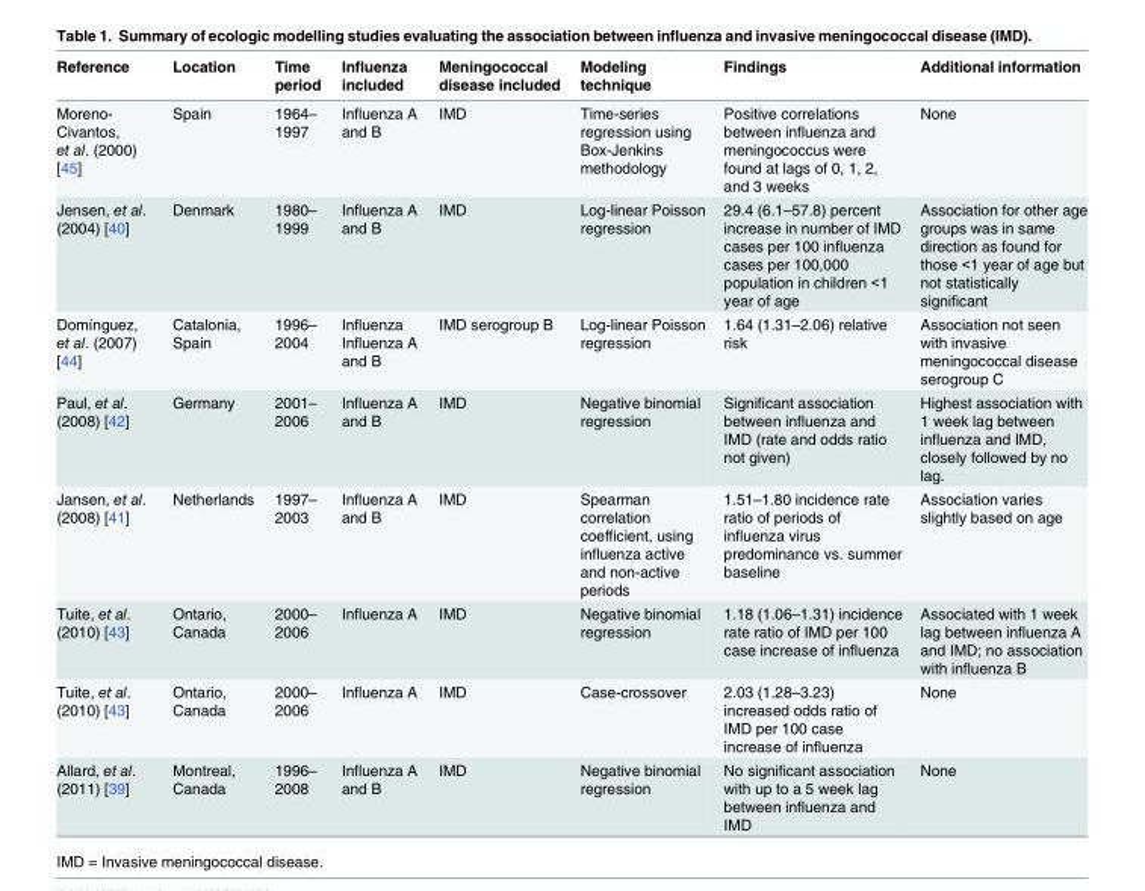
<table><thead><tr><td>Reference</td><td>Location</td><td>Time period</td><td>Influenza included</td><td>Meningococcal disease included</td><td>Modeling technique</td><td>Findings</td><td>Additional information</td></tr></thead><tbody><tr><td>Moreno- Civantos, et al. (2000) [45]</td><td>Spain</td><td>1964– 1997</td><td>Influenza A and B</td><td>IMD</td><td>Time-series regression using Box-Jenkins methodology</td><td>Positive correlations between influenza and meningococcus were found at lags of 0, 1, 2, and 3 weeks</td><td>None</td></tr><tr><td>Jensen, et al. (2004) [40]</td><td>Denmark</td><td>1980– 1999</td><td>Influenza A and B</td><td>IMD</td><td>Log-linear Poisson regression</td><td>29.4 (6.1–57.8) percent increase in number of IMD cases per 100 influenza cases per 100,000 population in children &lt;1 year of age</td><td>Association for other age groups was in same direction as found for those &lt;1 year of age but not statistically significant</td></tr><tr><td>Domínguez, et al. (2007) [44]</td><td>Catalonia, Spain</td><td>1996– 2004</td><td>Influenza Influenza A and B</td><td>IMD serogroup B</td><td>Log-linear Poisson regression</td><td>1.64 (1.31–2.06) relative risk</td><td>Association not seen with invasive meningococcal disease serogroup C</td></tr><tr><td>Paul, et al. (2008) [42]</td><td>Germany</td><td>2001– 2006</td><td>Influenza A and B</td><td>IMD</td><td>Negative binomial regression</td><td>Significant association between influenza and IMD (rate and odds ratio not given)</td><td>Highest association with 1 week lag between influenza and IMD, closely followed by no lag.</td></tr><tr><td>Jansen, et al. (2008) [41]</td><td>Netherlands</td><td>1997– 2003</td><td>Influenza A and B</td><td>IMD</td><td>Spearman correlation coefficient, using influenza active and non-active periods</td><td>1.51–1.80 incidence rate ratio of periods of influenza virus predominance vs. summer baseline</td><td>Association varies slightly based on age</td></tr><tr><td>Tuite, et al. (2010) [43]</td><td>Ontario, Canada</td><td>2000– 2006</td><td>Influenza A</td><td>IMD</td><td>Negative binomial regression</td><td>1.18 (1.06–1.31) incidence rate ratio of IMD per 100 case increase of influenza</td><td>Associated with 1 week lag between influenza A and IMD; no association with influenza B</td></tr><tr><td>Tuite, et al. (2010) [43]</td><td>Ontario, Canada</td><td>2000– 2006</td><td>Influenza A</td><td>IMD</td><td>Case-crossover</td><td>2.03 (1.28–3.23) increased odds ratio of IMD per 100 case increase of influenza</td><td>None</td></tr><tr><td>Allard, et al. (2011) [39]</td><td>Montreal, Canada</td><td>1996– 2008</td><td>Influenza A and B</td><td>IMD</td><td>Negative binomial regression</td><td>No significant association with up to a 5 week lag between influenza and IMD</td><td>None</td></tr></tbody></table>